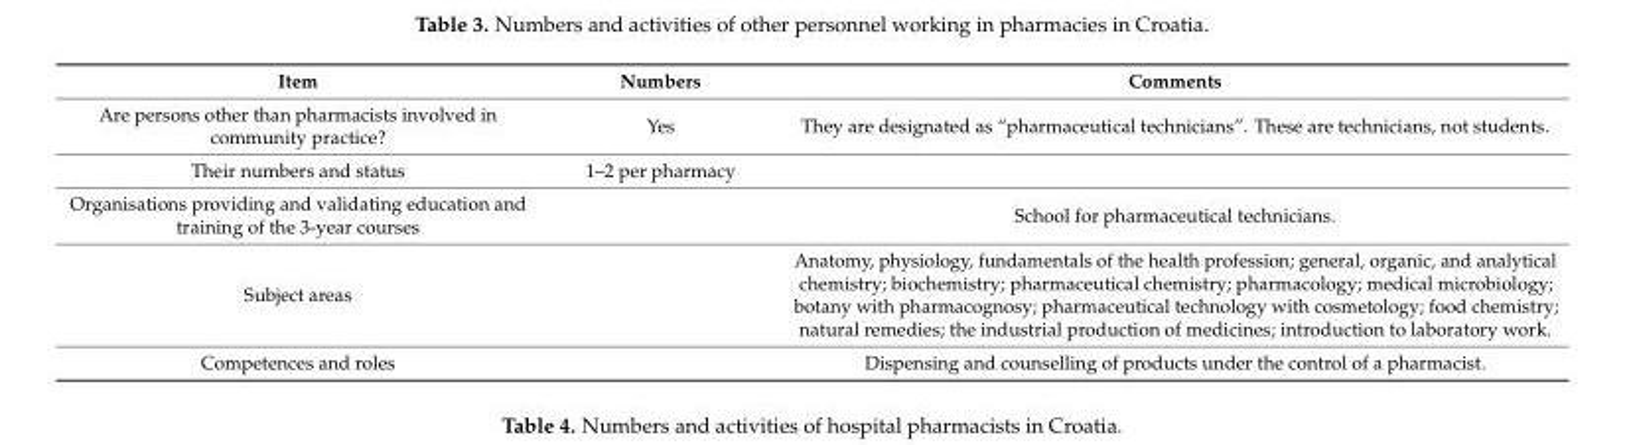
<table><thead><tr><td>Item</td><td>Numbers</td><td>Comments</td></tr></thead><tbody><tr><td>Are persons other than pharmacists involved in community practice?</td><td>Yes</td><td>They are designated as “pharmaceutical technicians”. These are technicians, not students.</td></tr><tr><td>Their numbers and status</td><td>1–2 per pharmacy</td><td></td></tr><tr><td>Organisations providing and validating education and training of the 3-year courses</td><td></td><td>School for pharmaceutical technicians.</td></tr><tr><td>Subject areas</td><td></td><td>Anatomy, physiology, fundamentals of the health profession; general, organic, and analytical chemistry; biochemistry; pharmaceutical chemistry; pharmacology; medical microbiology; botany with pharmacognosy; pharmaceutical technology with cosmetology; food chemistry; natural remedies; the industrial production of medicines; introduction to laboratory work.</td></tr><tr><td>Competences and roles</td><td></td><td>Dispensing and counselling of products under the control of a pharmacist.</td></tr></tbody></table>